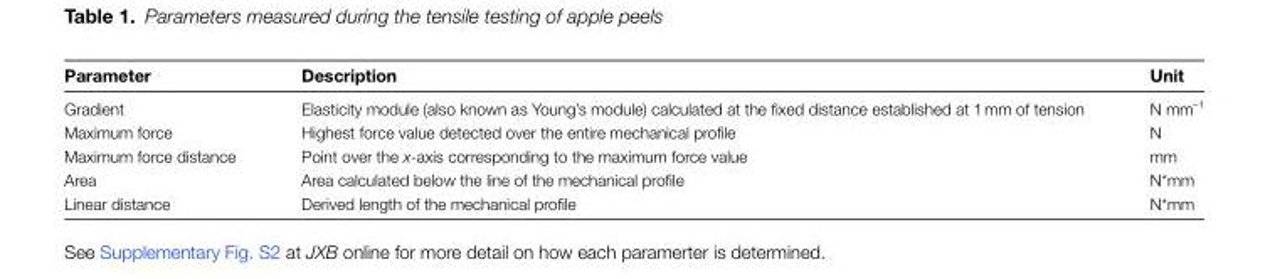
<table><thead><tr><td>Parameter</td><td>Description</td><td>Unit</td></tr></thead><tbody><tr><td>Gradient</td><td>Elasticity module (also known as Young’s module) calculated at the fixed distance established at 1 mm of tension</td><td>N mm<sup>–1</sup></td></tr><tr><td>Maximum force</td><td>Highest force value detected over the entire mechanical profile</td><td>N</td></tr><tr><td>Maximum force distance</td><td>Point over the x-axis corresponding to the maximum force value</td><td>mm</td></tr><tr><td>Area</td><td>Area calculated below the line of the mechanical profile</td><td>N*mm</td></tr><tr><td>Linear distance</td><td>Derived length of the mechanical profile</td><td>N*mm</td></tr></tbody></table>